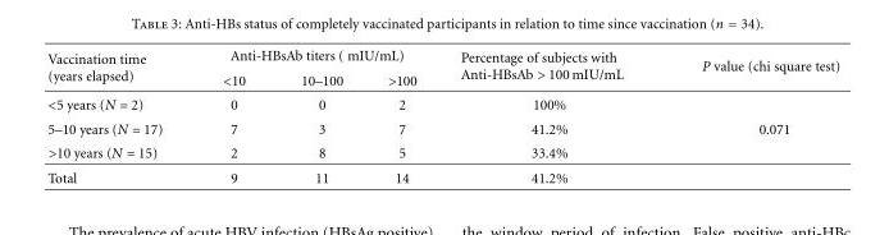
<table><thead><tr><td rowspan="2">Vaccination time (years elapsed)</td><td colspan="3">Anti-HBsAb titers ( mIU/mL)</td><td rowspan="2">Percentage of subjects with Anti-HBsAb &gt; 100 mIU/mL</td><td rowspan="2">P value (chi square test)</td></tr><tr><td>&lt;10</td><td>10–100</td><td>&gt;100</td></tr></thead><tbody><tr><td>&lt;5 years (N = 2)</td><td>0</td><td>0</td><td>2</td><td>100%</td><td></td></tr><tr><td>5–10 years (N = 17)</td><td>7</td><td>3</td><td>7</td><td>41.2%</td><td>0.071</td></tr><tr><td>&gt;10 years (N = 15)</td><td>2</td><td>8</td><td>5</td><td>33.4%</td><td></td></tr><tr><td>Total</td><td>9</td><td>11</td><td>14</td><td>41.2%</td><td></td></tr></tbody></table>